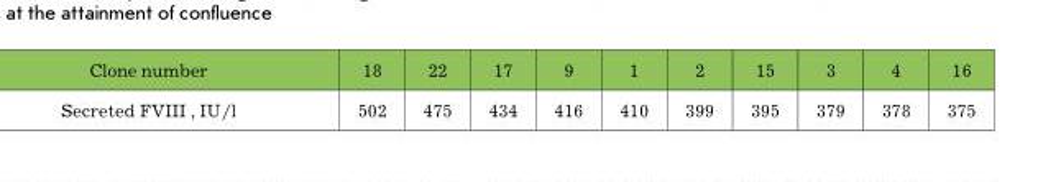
<table><thead><tr><td>clone number</td><td>18</td><td>22</td><td>17</td><td>9</td><td>1</td><td>2</td><td>15</td><td>3</td><td>4</td><td>16</td></tr></thead><tbody><tr><td>Secreted FVIII , Iu/l</td><td>502</td><td>475</td><td>434</td><td>416</td><td>410</td><td>399</td><td>395</td><td>379</td><td>378</td><td>375</td></tr></tbody></table>